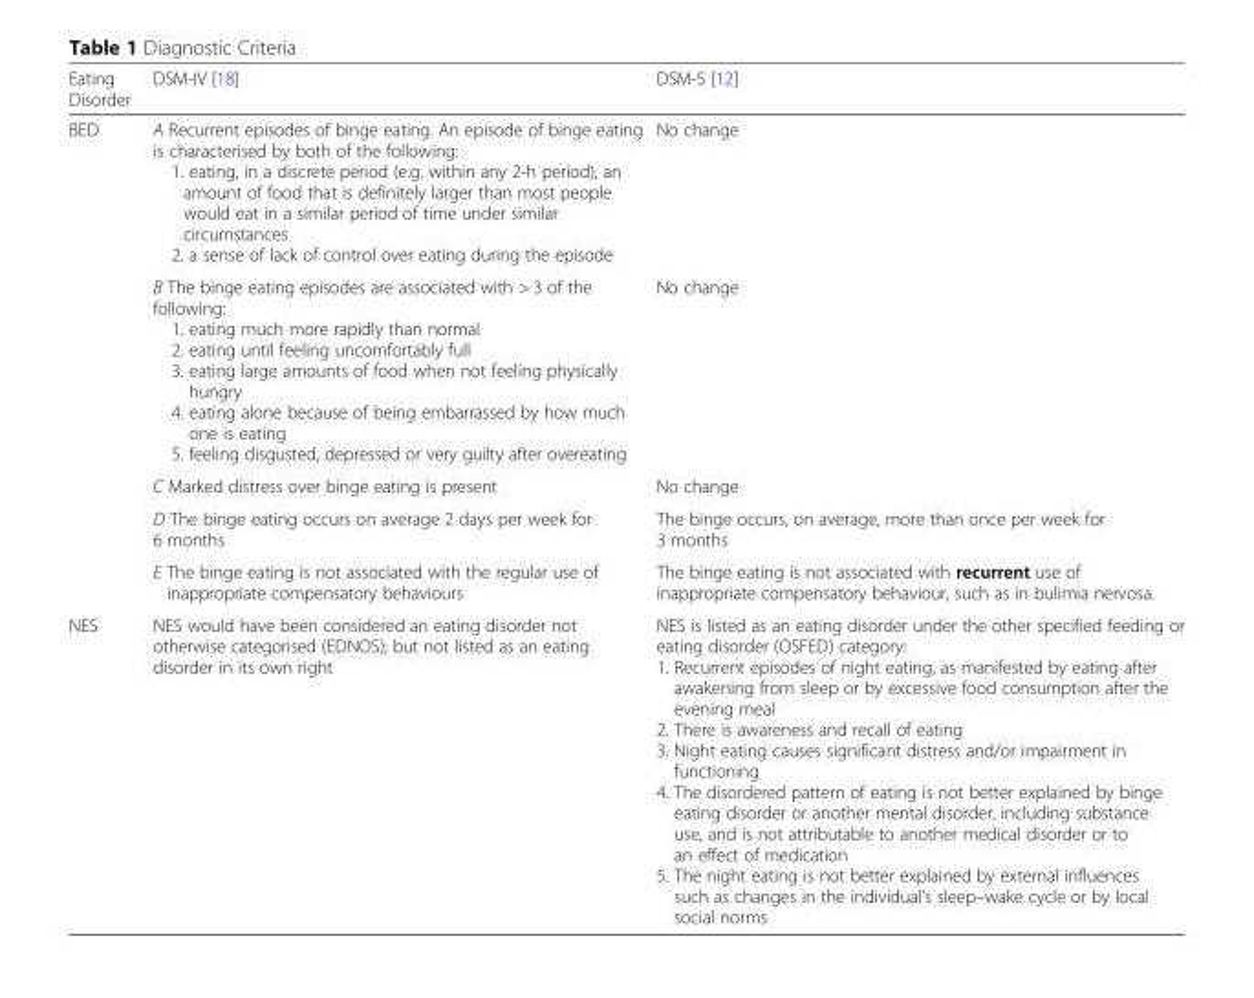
<table><thead><tr><td>Eating Disorder</td><td>DSM-IV [18]</td><td>DSM-5 [12]</td></tr></thead><tbody><tr><td rowspan="5">BED</td><td>A Recurrent episodes of binge eating. An episode of binge eating is characterised by both of the following: 1. eating, in a discrete period (e.g. within any 2-h period), an amount of food that is definitely larger than most people would eat in a similar period of time under similar circumstances 2. a sense of lack of control over eating during the episode</td><td>No change</td></tr><tr><td>B The binge eating episodes are associated with &gt; 3 of the following: 1. eating much more rapidly than normal 2. eating until feeling uncomfortably full 3. eating large amounts of food when not feeling physically hungry 4. eating alone because of being embarrassed by how much one is eating 5. feeling disgusted, depressed or very guilty after overeating</td><td>No change</td></tr><tr><td>C Marked distress over binge eating is present</td><td>No change</td></tr><tr><td>D The binge eating occurs on average 2 days per week for 6 months</td><td>The binge occurs, on average, more than once per week for 3 months</td></tr><tr><td>E The binge eating is not associated with the regular use of inappropriate compensatory behaviours</td><td>The binge eating is not associated with recurrent use of inappropriate compensatory behaviour, such as in bulimia nervosa.</td></tr><tr><td>NES</td><td>NES would have been considered an eating disorder not otherwise categorised (EDNOS); but not listed as an eating disorder in its own right</td><td>NES is listed as an eating disorder under the other specified feeding or eating disorder (OSFED) category: 1. Recurrent episodes of night eating, as manifested by eating after awakening from sleep or by excessive food consumption after the evening meal 2. There is awareness and recall of eating 3. Night eating causes significant distress and/or impairment in functioning 4. The disordered pattern of eating is not better explained by binge eating disorder or another mental disorder, including substance use, and is not attributable to another medical disorder or to an effect of medication 5. The night eating is not better explained by external influences such as changes in the individual’s sleep–wake cycle or by local social norms</td></tr></tbody></table>